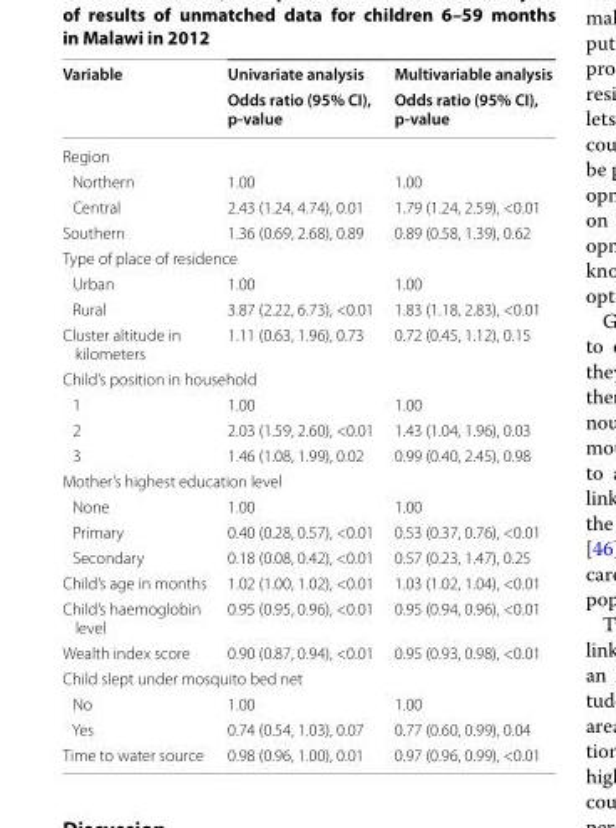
<table><thead><tr><td rowspan="2">Variable</td><td rowspan="2">Univariate analysis Odds ratio (95% CI), p-value</td><td rowspan="2">Multivariable analysis Odds ratio (95% CI), p-value</td></tr><tr></tr></thead><tbody><tr><td colspan="3">Region</td></tr><tr><td>Northern</td><td>1.00</td><td>1.00</td></tr><tr><td>Central</td><td>2.43 (1.24, 4.74), 0.01</td><td>1.79 (1.24, 2.59), &lt;0.01</td></tr><tr><td>Southern</td><td>1.36 (0.69, 2.68), 0.89</td><td>0.89 (0.58, 1.39), 0.62</td></tr><tr><td colspan="3">Type of place of residence</td></tr><tr><td>Urban</td><td>1.00</td><td>1.00</td></tr><tr><td>Rural</td><td>3.87 (2.22, 6.73), &lt;0.01</td><td>1.83 (1.18, 2.83), &lt;0.01</td></tr><tr><td>Cluster altitude in kilometers</td><td>1.11 (0.63, 1.96), 0.73</td><td>0.72 (0.45, 1.12), 0.15</td></tr><tr><td colspan="3">Child’s position in household</td></tr><tr><td>1</td><td>1.00</td><td>1.00</td></tr><tr><td>2</td><td>2.03 (1.59, 2.60), &lt;0.01</td><td>1.43 (1.04, 1.96), 0.03</td></tr><tr><td>3</td><td>1.46 (1.08, 1.99), 0.02</td><td>0.99 (0.40, 2.45), 0.98</td></tr><tr><td colspan="3">Mother’s highest education level</td></tr><tr><td>None</td><td>1.00</td><td>1.00</td></tr><tr><td>Primary</td><td>0.40 (0.28, 0.57), &lt;0.01</td><td>0.53 (0.37, 0.76), &lt;0.01</td></tr><tr><td>Secondary</td><td>0.18 (0.08, 0.42), &lt;0.01</td><td>0.57 (0.23, 1.47), 0.25</td></tr><tr><td>Child’s age in months</td><td>1.02 (1.00, 1.02), &lt;0.01</td><td>1.03 (1.02, 1.04), &lt;0.01</td></tr><tr><td>Child’s haemoglobin level</td><td>0.95 (0.95, 0.96), &lt;0.01</td><td>0.95 (0.94, 0.96), &lt;0.01</td></tr><tr><td>Wealth index score</td><td>0.90 (0.87, 0.94), &lt;0.01</td><td>0.95 (0.93, 0.98), &lt;0.01</td></tr><tr><td colspan="3">Child slept under mosquito bed net</td></tr><tr><td>No</td><td>1.00</td><td>1.00</td></tr><tr><td>Yes</td><td>0.74 (0.54, 1.03), 0.07</td><td>0.77 (0.60, 0.99), 0.04</td></tr><tr><td>Time to water source</td><td>0.98 (0.96, 1.00), 0.01</td><td>0.97 (0.96, 0.99), &lt;0.01</td></tr></tbody></table>